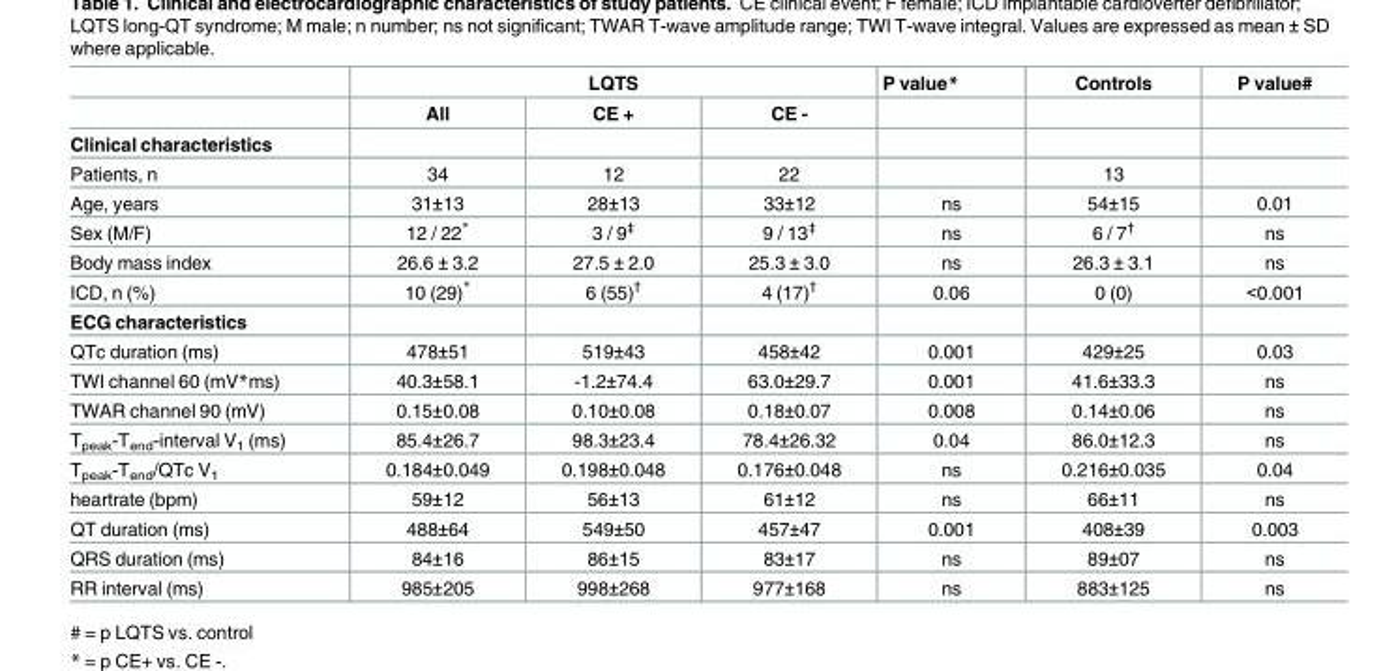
<table><thead><tr><td rowspan="2"></td><td colspan="3">LQTS</td><td rowspan="2">P value*</td><td rowspan="2">Controls</td><td rowspan="2">P value#</td></tr><tr><td>All</td><td>CE +</td><td>CE -</td></tr></thead><tbody><tr><td colspan="7">Clinical characteristics</td></tr><tr><td>Patients, n</td><td>34</td><td>12</td><td>22</td><td></td><td>13</td><td></td></tr><tr><td>Age, years</td><td>31±13</td><td>28±13</td><td>33±12</td><td>ns</td><td>54±15</td><td>0.01</td></tr><tr><td>Sex (M/F)</td><td>12 / 22*</td><td>3 / 9<sup>‡</sup></td><td>9 / 13<sup>‡</sup></td><td>ns</td><td>6 / 7<sup>†</sup></td><td>ns</td></tr><tr><td>Body mass index</td><td>26.6 ± 3.2</td><td>27.5 ± 2.0</td><td>25.3 ± 3.0</td><td>ns</td><td>26.3 ± 3.1</td><td>ns</td></tr><tr><td>ICD, n (%)</td><td>10 (29)*</td><td>6 (55)<sup>†</sup></td><td>4 (17)<sup>†</sup></td><td>0.06</td><td>0 (0)</td><td>&lt;0.001</td></tr><tr><td colspan="7">ECG characteristics</td></tr><tr><td>QTc duration (ms)</td><td>478±51</td><td>519±43</td><td>458±42</td><td>0.001</td><td>429±25</td><td>0.03</td></tr><tr><td>TWI channel 60 (mV*ms)</td><td>40.3±58.1</td><td>-1.2±74.4</td><td>63.0±29.7</td><td>0.001</td><td>41.6±33.3</td><td>ns</td></tr><tr><td>TWAR channel 90 (mV)</td><td>0.15±0.08</td><td>0.10±0.08</td><td>0.18±0.07</td><td>0.008</td><td>0.14±0.06</td><td>ns</td></tr><tr><td>T<sub>peak</sub>-T<sub>end</sub>-interval V<sub>1</sub> (ms)</td><td>85.4±26.7</td><td>98.3±23.4</td><td>78.4±26.32</td><td>0.04</td><td>86.0±12.3</td><td>ns</td></tr><tr><td>T<sub>peak</sub>-T<sub>end</sub>/QTc V<sub>1</sub></td><td>0.184±0.049</td><td>0.198±0.048</td><td>0.176±0.048</td><td>ns</td><td>0.216±0.035</td><td>0.04</td></tr><tr><td>heartrate (bpm)</td><td>59±12</td><td>56±13</td><td>61±12</td><td>ns</td><td>66±11</td><td>ns</td></tr><tr><td>QT duration (ms)</td><td>488±64</td><td>549±50</td><td>457±47</td><td>0.001</td><td>408±39</td><td>0.003</td></tr><tr><td>QRS duration (ms)</td><td>84±16</td><td>86±15</td><td>83±17</td><td>ns</td><td>89±07</td><td>ns</td></tr><tr><td>RR interval (ms)</td><td>985±205</td><td>998±268</td><td>977±168</td><td>ns</td><td>883±125</td><td>ns</td></tr></tbody></table>